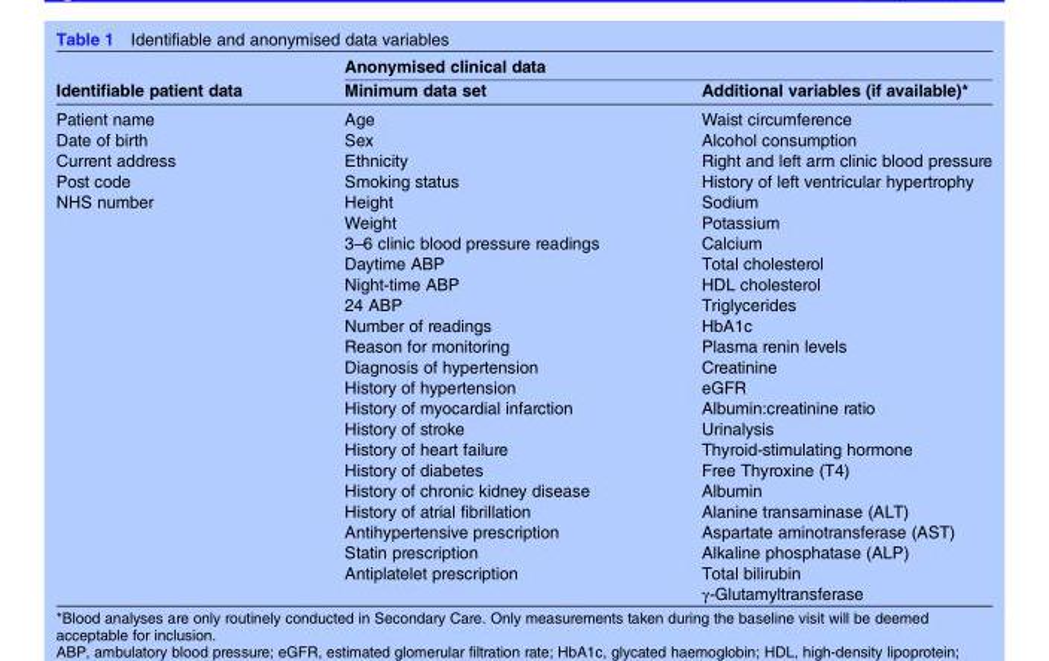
<table><thead><tr><td rowspan="2">Identifiable patient data</td><td colspan="2">Anonymised clinical data</td></tr><tr><td>Minimum data set</td><td>Additional variables (if available)*</td></tr></thead><tbody><tr><td>Patient name</td><td>Age</td><td>Waist circumference</td></tr><tr><td>Date of birth</td><td>Sex</td><td>Alcohol consumption</td></tr><tr><td>Current address</td><td>Ethnicity</td><td>Right and left arm clinic blood pressure</td></tr><tr><td>Post code</td><td>Smoking status</td><td>History of left ventricular hypertrophy</td></tr><tr><td rowspan="20">NHS number</td><td>Height</td><td>Sodium</td></tr><tr><td>Weight</td><td>Potassium</td></tr><tr><td>3–6 clinic blood pressure readings</td><td>Calcium</td></tr><tr><td>Daytime ABP</td><td>Total cholesterol</td></tr><tr><td>Night-time ABP</td><td>HDL cholesterol</td></tr><tr><td>24 ABP</td><td>Triglycerides</td></tr><tr><td>Number of readings</td><td>HbA1c</td></tr><tr><td>Reason for monitoring</td><td>Plasma renin levels</td></tr><tr><td>Diagnosis of hypertension</td><td>Creatinine</td></tr><tr><td>History of hypertension</td><td>eGFR</td></tr><tr><td>History of myocardial infarction</td><td>Albumin:creatinine ratio</td></tr><tr><td>History of stroke</td><td>Urinalysis</td></tr><tr><td>History of heart failure</td><td>Thyroid-stimulating hormone</td></tr><tr><td>History of diabetes</td><td>Free Thyroxine (T4)</td></tr><tr><td>History of chronic kidney disease</td><td>Albumin</td></tr><tr><td>History of atrial fibrillation</td><td>Alanine transaminase (ALT)</td></tr><tr><td>Antihypertensive prescription</td><td>Aspartate aminotransferase (AST)</td></tr><tr><td>Statin prescription</td><td>Alkaline phosphatase (ALP)</td></tr><tr><td>Antiplatelet prescription</td><td>Total bilirubin</td></tr><tr><td></td><td>γ-Glutamyltransferase</td></tr></tbody></table>